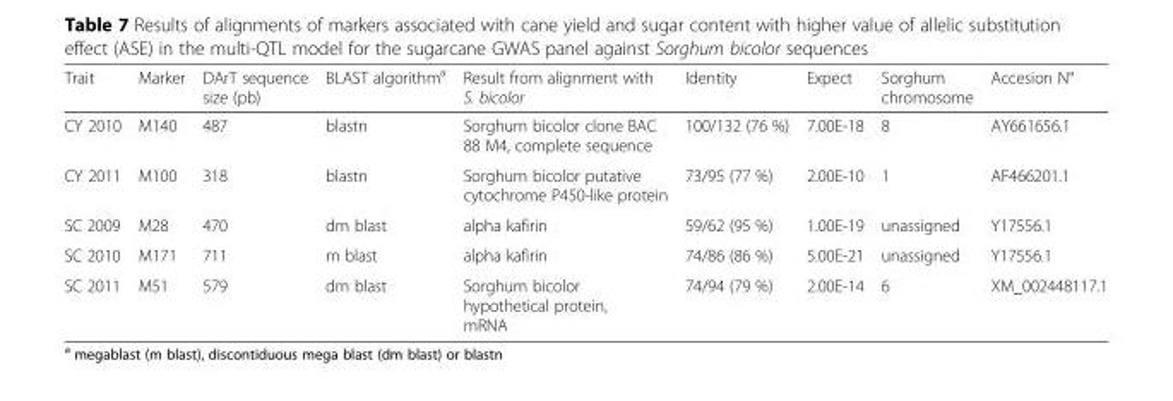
<table><thead><tr><td>Trait</td><td>Marker</td><td>DArT sequence size (pb)</td><td>BLAST algorithm<sup>a</sup></td><td>Result from alignment with S. bicolor</td><td>Identity</td><td>Expect</td><td>Sorghum chromosome</td><td>Accesion N°</td></tr></thead><tbody><tr><td>CY 2010</td><td>M140</td><td>487</td><td>blastn</td><td>Sorghum bicolor clone BAC 88 M4, complete sequence</td><td>100/132 (76 %)</td><td>7.00E-18</td><td>8</td><td>AY661656.1</td></tr><tr><td>CY 2011</td><td>M100</td><td>318</td><td>blastn</td><td>Sorghum bicolor putative cytochrome P450-like protein</td><td>73/95 (77 %)</td><td>2.00E-10</td><td>1</td><td>AF466201.1</td></tr><tr><td>SC 2009</td><td>M28</td><td>470</td><td>dm blast</td><td>alpha kafirin</td><td>59/62 (95 %)</td><td>1.00E-19</td><td>unassigned</td><td>Y17556.1</td></tr><tr><td>SC 2010</td><td>M171</td><td>711</td><td>m blast</td><td>alpha kafirin</td><td>74/86 (86 %)</td><td>5.00E-21</td><td>unassigned</td><td>Y17556.1</td></tr><tr><td>SC 2011</td><td>M51</td><td>579</td><td>dm blast</td><td>Sorghum bicolor hypothetical protein, mRNA</td><td>74/94 (79 %)</td><td>2.00E-14</td><td>6</td><td>XM_002448117.1</td></tr></tbody></table>